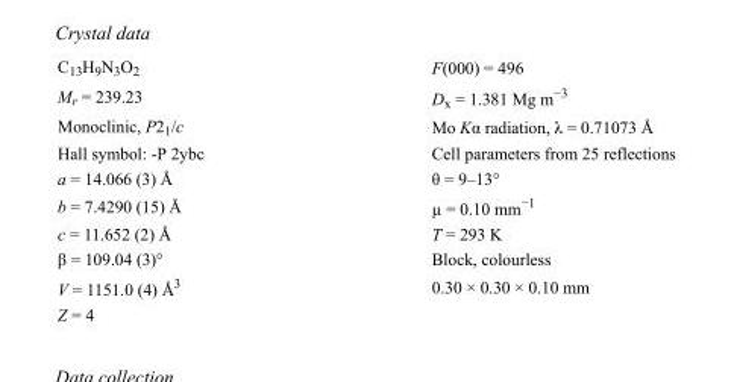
<table><tbody><tr><td>C<sub>13</sub>H<sub>9</sub>N<sub>3</sub>O<sub>2</sub></td><td>F(000) = 496</td></tr><tr><td>M<sub>r</sub> = 239.23</td><td>D<sub>x</sub> = 1.381 Mg m<sup>−3</sup></td></tr><tr><td>Monoclinic, P2<sub>1</sub>/c</td><td>Mo Kα radiation, λ = 0.71073 Å</td></tr><tr><td>Hall symbol: -P 2ybc</td><td>Cell parameters from 25 reflections</td></tr><tr><td>a = 14.066 (3) Å</td><td>θ = 9–13°</td></tr><tr><td>b = 7.4290 (15) Å</td><td>µ = 0.10 mm<sup>−1</sup></td></tr><tr><td>c = 11.652 (2) Å</td><td>T = 293 K</td></tr><tr><td>β = 109.04 (3)°</td><td>Block, colourless</td></tr><tr><td>V = 1151.0 (4) Å<sup>3</sup></td><td>0.30 × 0.30 × 0.10 mm</td></tr><tr><td>Z = 4</td><td></td></tr></tbody></table>